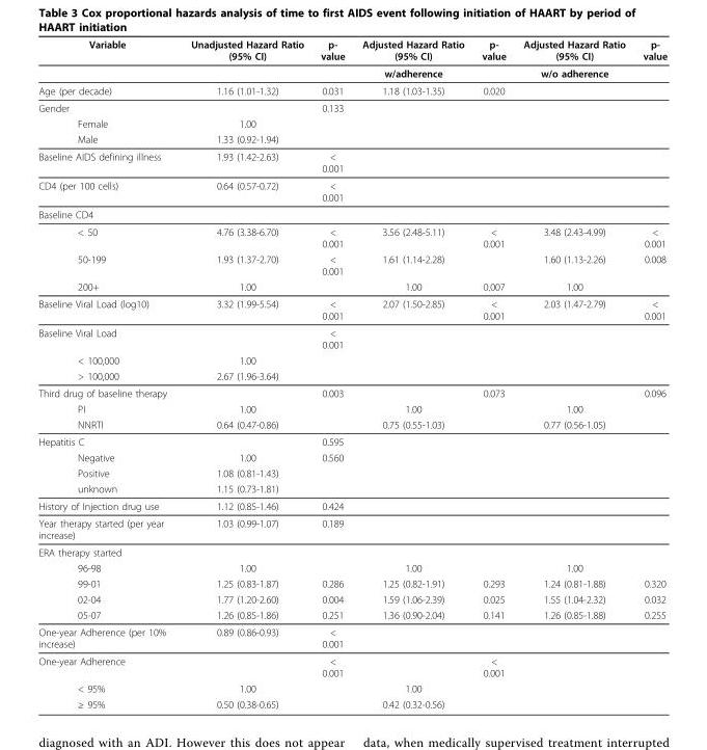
<table><thead><tr><td>Variable</td><td>Unadjusted Hazard Ratio (95% CI)</td><td>p- value</td><td>Adjusted Hazard Ratio (95% CI)</td><td>p- value</td><td>Adjusted Hazard Ratio (95% CI)</td><td>p- value</td></tr></thead><tbody><tr><td></td><td></td><td></td><td>w/adherence</td><td></td><td>w/o adherence</td><td></td></tr><tr><td>Age (per decade)</td><td>1.16 (1.01-1.32)</td><td>0.031</td><td>1.18 (1.03-1.35)</td><td>0.020</td><td></td><td></td></tr><tr><td>Gender</td><td></td><td>0.133</td><td></td><td></td><td></td><td></td></tr><tr><td>Female</td><td>1.00</td><td></td><td></td><td></td><td></td><td></td></tr><tr><td>Male</td><td>1.33 (0.92-1.94)</td><td></td><td></td><td></td><td></td><td></td></tr><tr><td>Baseline AIDS defining illness</td><td>1.93 (1.42-2.63)</td><td>&lt; 0.001</td><td></td><td></td><td></td><td></td></tr><tr><td>CD4 (per 100 cells)</td><td>0.64 (0.57-0.72)</td><td>&lt; 0.001</td><td></td><td></td><td></td><td></td></tr><tr><td colspan="7">Baseline CD4</td></tr><tr><td>&lt; 50</td><td>4.76 (3.38-6.70)</td><td>&lt; 0.001</td><td>3.56 (2.48-5.11)</td><td>&lt; 0.001</td><td>3.48 (2.43-4.99)</td><td>&lt; 0.001</td></tr><tr><td>50-199</td><td>1.93 (1.37-2.70)</td><td>&lt; 0.001</td><td>1.61 (1.14-2.28)</td><td></td><td>1.60 (1.13-2.26)</td><td>0.008</td></tr><tr><td>200+</td><td>1.00</td><td></td><td>1.00</td><td>0.007</td><td>1.00</td><td></td></tr><tr><td>Baseline Viral Load (log10)</td><td>3.32 (1.99-5.54)</td><td>&lt; 0.001</td><td>2.07 (1.50-2.85)</td><td>&lt; 0.001</td><td>2.03 (1.47-2.79)</td><td>&lt; 0.001</td></tr><tr><td>Baseline Viral Load</td><td></td><td>&lt; 0.001</td><td></td><td></td><td></td><td></td></tr><tr><td>&lt; 100,000</td><td>1.00</td><td></td><td></td><td></td><td></td><td></td></tr><tr><td>&gt; 100,000</td><td>2.67 (1.96-3.64)</td><td></td><td></td><td></td><td></td><td></td></tr><tr><td>Third drug of baseline therapy</td><td></td><td>0.003</td><td></td><td>0.073</td><td></td><td>0.096</td></tr><tr><td>PI</td><td>1.00</td><td></td><td>1.00</td><td></td><td>1.00</td><td></td></tr><tr><td>NNRTI</td><td>0.64 (0.47-0.86)</td><td></td><td>0.75 (0.55-1.03)</td><td></td><td>0.77 (0.56-1.05)</td><td></td></tr><tr><td>Hepatitis C</td><td></td><td>0.595</td><td></td><td></td><td></td><td></td></tr><tr><td>Negative</td><td>1.00</td><td>0.560</td><td></td><td></td><td></td><td></td></tr><tr><td>Positive</td><td>1.08 (0.81-1.43)</td><td></td><td></td><td></td><td></td><td></td></tr><tr><td>unknown</td><td>1.15 (0.73-1.81)</td><td></td><td></td><td></td><td></td><td></td></tr><tr><td>History of Injection drug use</td><td>1.12 (0.85-1.46)</td><td>0.424</td><td></td><td></td><td></td><td></td></tr><tr><td>Year therapy started (per year increase)</td><td>1.03 (0.99-1.07)</td><td>0.189</td><td></td><td></td><td></td><td></td></tr><tr><td colspan="7">ERA therapy started</td></tr><tr><td>96-98</td><td>1.00</td><td></td><td>1.00</td><td></td><td>1.00</td><td></td></tr><tr><td>99-01</td><td>1.25 (0.83-1.87)</td><td>0.286</td><td>1.25 (0.82-1.91)</td><td>0.293</td><td>1.24 (0.81-1.88)</td><td>0.320</td></tr><tr><td>02-04</td><td>1.77 (1.20-2.60)</td><td>0.004</td><td>1.59 (1.06-2.39)</td><td>0.025</td><td>1.55 (1.04-2.32)</td><td>0.032</td></tr><tr><td>05-07</td><td>1.26 (0.85-1.86)</td><td>0.251</td><td>1.36 (0.90-2.04)</td><td>0.141</td><td>1.26 (0.85-1.88)</td><td>0.255</td></tr><tr><td>One-year Adherence (per 10% increase)</td><td>0.89 (0.86-0.93)</td><td>&lt; 0.001</td><td></td><td></td><td></td><td></td></tr><tr><td>One-year Adherence</td><td></td><td>&lt; 0.001</td><td></td><td>&lt; 0.001</td><td></td><td></td></tr><tr><td>&lt; 95%</td><td>1.00</td><td></td><td>1.00</td><td></td><td></td><td></td></tr><tr><td>≥ 95%</td><td>0.50 (0.38-0.65)</td><td></td><td>0.42 (0.32-0.56)</td><td></td><td></td><td></td></tr></tbody></table>